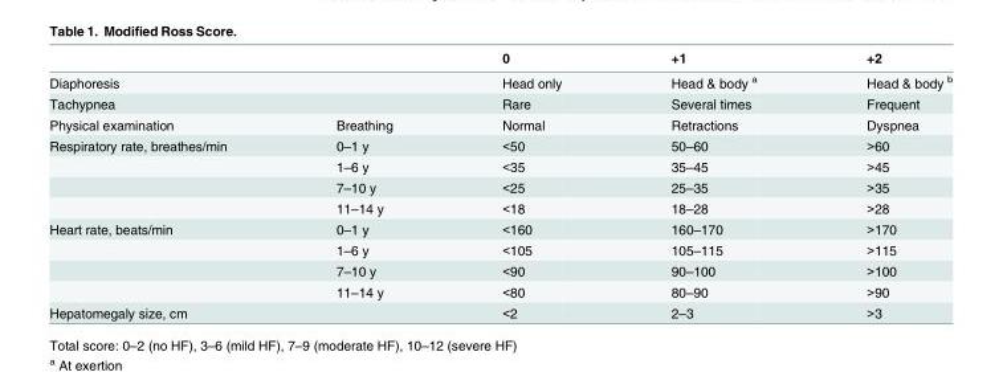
<table><thead><tr><td></td><td></td><td>0</td><td>+1</td><td>+2</td></tr></thead><tbody><tr><td>Diaphoresis</td><td></td><td>Head only</td><td>Head &amp; body <sup>a</sup></td><td>Head &amp; body <sup>b</sup></td></tr><tr><td>Tachypnea</td><td></td><td>Rare</td><td>Several times</td><td>Frequent</td></tr><tr><td>Physical examination</td><td>Breathing</td><td>Normal</td><td>Retractions</td><td>Dyspnea</td></tr><tr><td rowspan="4">Respiratory rate, breathes/min</td><td>0–1 y</td><td>&lt;50</td><td>50–60</td><td>&gt;60</td></tr><tr><td>1–6 y</td><td>&lt;35</td><td>35–45</td><td>&gt;45</td></tr><tr><td>7–10 y</td><td>&lt;25</td><td>25–35</td><td>&gt;35</td></tr><tr><td>11–14 y</td><td>&lt;18</td><td>18–28</td><td>&gt;28</td></tr><tr><td rowspan="4">Heart rate, beats/min</td><td>0–1 y</td><td>&lt;160</td><td>160–170</td><td>&gt;170</td></tr><tr><td>1–6 y</td><td>&lt;105</td><td>105–115</td><td>&gt;115</td></tr><tr><td>7–10 y</td><td>&lt;90</td><td>90–100</td><td>&gt;100</td></tr><tr><td>11–14 y</td><td>&lt;80</td><td>80–90</td><td>&gt;90</td></tr><tr><td>Hepatomegaly size, cm</td><td></td><td>&lt;2</td><td>2–3</td><td>&gt;3</td></tr></tbody></table>